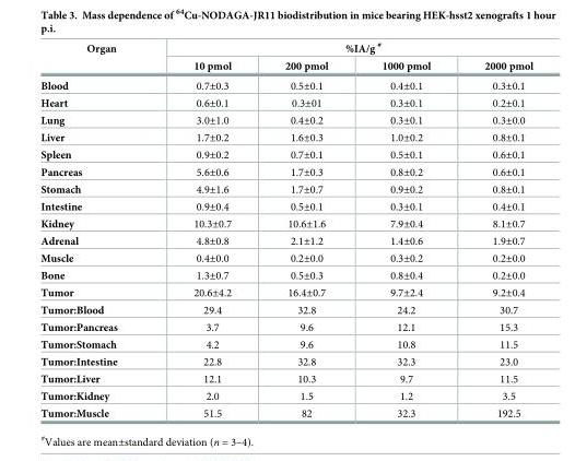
<table><thead><tr><td rowspan="2">Organ</td><td colspan="4">%IA/g <sup>#</sup></td></tr><tr><td>10 pmol</td><td>200 pmol</td><td>1000 pmol</td><td>2000 pmol</td></tr></thead><tbody><tr><td>Blood</td><td>0.7±0.3</td><td>0.5±0.1</td><td>0.4±0.1</td><td>0.3±0.1</td></tr><tr><td>Heart</td><td>0.6±0.1</td><td>0.3±01</td><td>0.3±0.1</td><td>0.2±0.1</td></tr><tr><td>Lung</td><td>3.0±1.0</td><td>0.4±0.2</td><td>0.3±0.1</td><td>0.3±0.0</td></tr><tr><td>Liver</td><td>1.7±0.2</td><td>1.6±0.3</td><td>1.0±0.2</td><td>0.8±0.1</td></tr><tr><td>Spleen</td><td>0.9±0.2</td><td>0.7±0.1</td><td>0.5±0.1</td><td>0.6±0.1</td></tr><tr><td>Pancreas</td><td>5.6±0.6</td><td>1.7±0.3</td><td>0.8±0.2</td><td>0.6±0.1</td></tr><tr><td>Stomach</td><td>4.9±1.6</td><td>1.7±0.7</td><td>0.9±0.2</td><td>0.8±0.1</td></tr><tr><td>Intestine</td><td>0.9±0.4</td><td>0.5±0.1</td><td>0.3±0.1</td><td>0.4±0.1</td></tr><tr><td>Kidney</td><td>10.3±0.7</td><td>10.6±1.6</td><td>7.9±0.4</td><td>8.1±0.7</td></tr><tr><td>Adrenal</td><td>4.8±0.8</td><td>2.1±1.2</td><td>1.4±0.6</td><td>1.9±0.7</td></tr><tr><td>Muscle</td><td>0.4±0.0</td><td>0.2±0.0</td><td>0.3±0.2</td><td>0.2±0.0</td></tr><tr><td>Bone</td><td>1.3±0.7</td><td>0.5±0.3</td><td>0.8±0.4</td><td>0.2±0.0</td></tr><tr><td>Tumor</td><td>20.6±4.2</td><td>16.4±0.7</td><td>9.7±2.4</td><td>9.2±0.4</td></tr><tr><td>Tumor:Blood</td><td>29.4</td><td>32.8</td><td>24.2</td><td>30.7</td></tr><tr><td>Tumor:Pancreas</td><td>3.7</td><td>9.6</td><td>12.1</td><td>15.3</td></tr><tr><td>Tumor:Stomach</td><td>4.2</td><td>9.6</td><td>10.8</td><td>11.5</td></tr><tr><td>Tumor:Intestine</td><td>22.8</td><td>32.8</td><td>32.3</td><td>23.0</td></tr><tr><td>Tumor:Liver</td><td>12.1</td><td>10.3</td><td>9.7</td><td>11.5</td></tr><tr><td>Tumor:Kidney</td><td>2.0</td><td>1.5</td><td>1.2</td><td>3.5</td></tr><tr><td>Tumor:Muscle</td><td>51.5</td><td>82</td><td>32.3</td><td>192.5</td></tr></tbody></table>